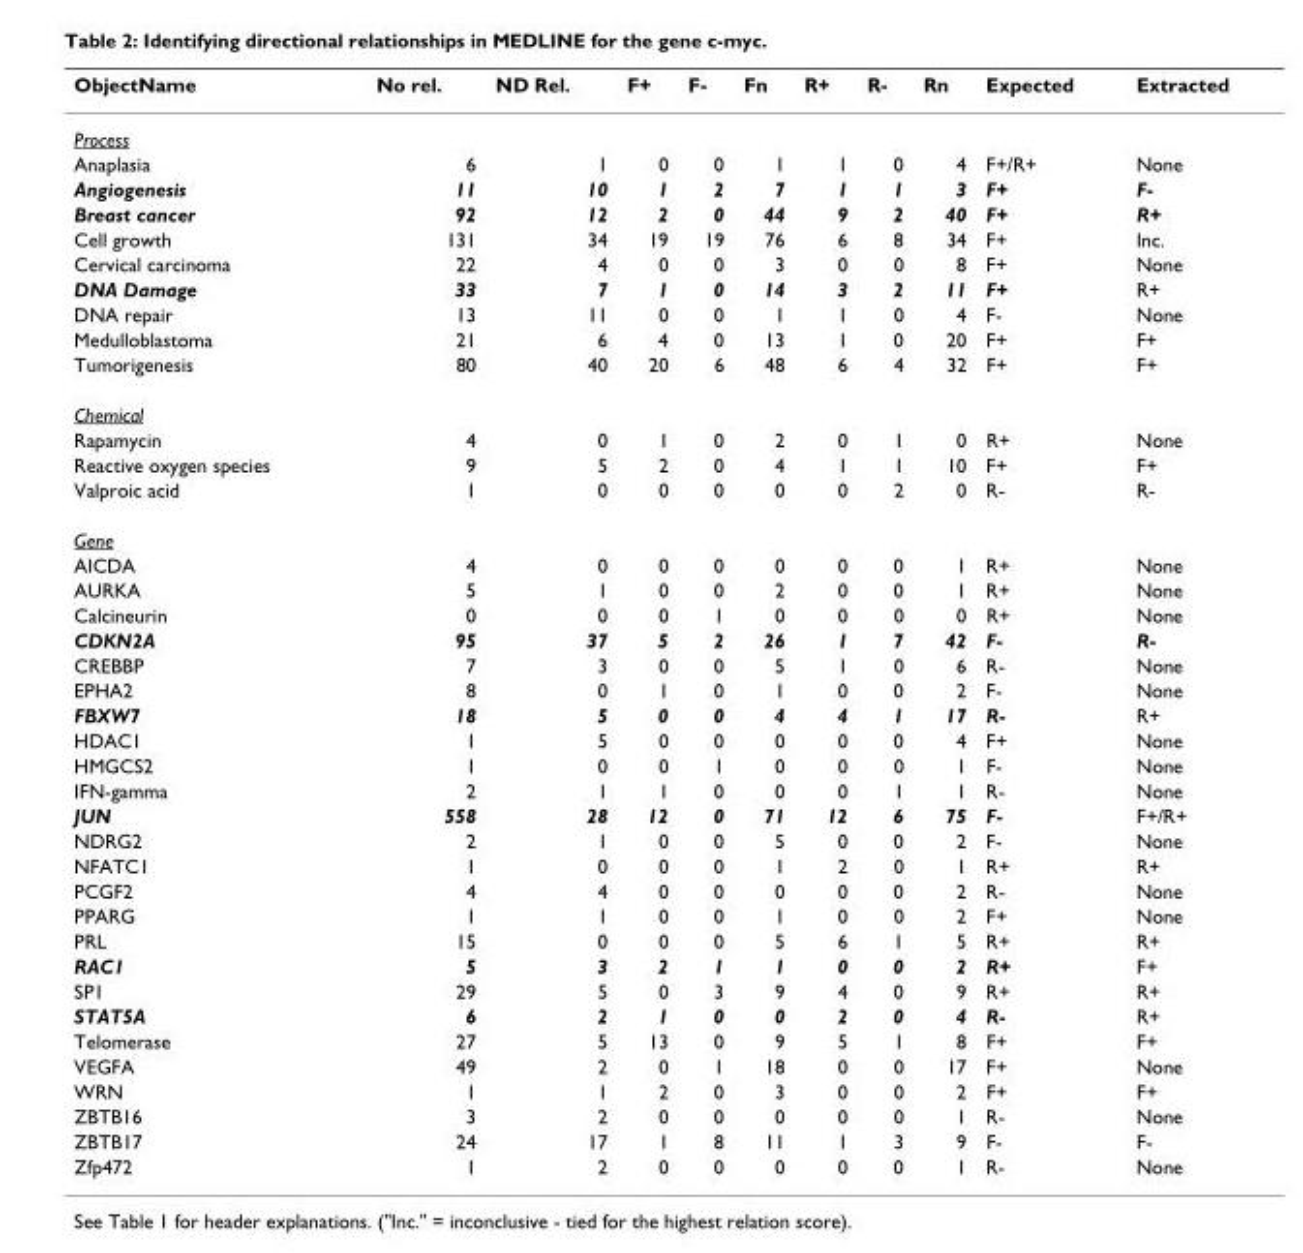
<table><thead><tr><td>ObjectName</td><td>No rel.</td><td>ND Rel.</td><td>F+</td><td>F-</td><td>Fn</td><td>R+</td><td>R-</td><td>Rn</td><td>Expected</td><td>Extracted</td></tr></thead><tbody><tr><td colspan="11">Process</td></tr><tr><td>Anaplasia</td><td>6</td><td>1</td><td>0</td><td>0</td><td>1</td><td>1</td><td>0</td><td>4</td><td>F+/R+</td><td>None</td></tr><tr><td>Angiogenesis</td><td>11</td><td>10</td><td>1</td><td>2</td><td>7</td><td>1</td><td>1</td><td>3</td><td>F+</td><td>F-</td></tr><tr><td>Breast cancer</td><td>92</td><td>12</td><td>2</td><td>0</td><td>44</td><td>9</td><td>2</td><td>40</td><td>F+</td><td>R+</td></tr><tr><td>Cell growth</td><td>131</td><td>34</td><td>19</td><td>19</td><td>76</td><td>6</td><td>8</td><td>34</td><td>F+</td><td>Inc.</td></tr><tr><td>Cervical carcinoma</td><td>22</td><td>4</td><td>0</td><td>0</td><td>3</td><td>0</td><td>0</td><td>8</td><td>F+</td><td>None</td></tr><tr><td>DNA Damage</td><td>33</td><td>7</td><td>1</td><td>0</td><td>14</td><td>3</td><td>2</td><td>11</td><td>F+</td><td>R+</td></tr><tr><td>DNA repair</td><td>13</td><td>11</td><td>0</td><td>0</td><td>1</td><td>1</td><td>0</td><td>4</td><td>F-</td><td>None</td></tr><tr><td>Medulloblastoma</td><td>21</td><td>6</td><td>4</td><td>0</td><td>13</td><td>1</td><td>0</td><td>20</td><td>F+</td><td>F+</td></tr><tr><td>Tumorigenesis</td><td>80</td><td>40</td><td>20</td><td>6</td><td>48</td><td>6</td><td>4</td><td>32</td><td>F+</td><td>F+</td></tr><tr><td colspan="11">Chemical</td></tr><tr><td>Rapamycin</td><td>4</td><td>0</td><td>1</td><td>0</td><td>2</td><td>0</td><td>1</td><td>0</td><td>R+</td><td>None</td></tr><tr><td>Reactive oxygen species</td><td>9</td><td>5</td><td>2</td><td>0</td><td>4</td><td>1</td><td>1</td><td>10</td><td>F+</td><td>F+</td></tr><tr><td>Valproic acid</td><td>1</td><td>0</td><td>0</td><td>0</td><td>0</td><td>0</td><td>2</td><td>0</td><td>R-</td><td>R-</td></tr><tr><td colspan="11">Gene</td></tr><tr><td>AICDA</td><td>4</td><td>0</td><td>0</td><td>0</td><td>0</td><td>0</td><td>0</td><td>1</td><td>R+</td><td>None</td></tr><tr><td>AURKA</td><td>5</td><td>1</td><td>0</td><td>0</td><td>2</td><td>0</td><td>0</td><td>1</td><td>R+</td><td>None</td></tr><tr><td>Calcineurin</td><td>0</td><td>0</td><td>0</td><td>1</td><td>0</td><td>0</td><td>0</td><td>0</td><td>R+</td><td>None</td></tr><tr><td>CDKN2A</td><td>95</td><td>37</td><td>5</td><td>2</td><td>26</td><td>1</td><td>7</td><td>42</td><td>F-</td><td>R-</td></tr><tr><td>CREBBP</td><td>7</td><td>3</td><td>0</td><td>0</td><td>5</td><td>1</td><td>0</td><td>6</td><td>R-</td><td>None</td></tr><tr><td>EPHA2</td><td>8</td><td>0</td><td>1</td><td>0</td><td>1</td><td>0</td><td>0</td><td>2</td><td>F-</td><td>None</td></tr><tr><td>FBXW7</td><td>18</td><td>5</td><td>0</td><td>0</td><td>4</td><td>4</td><td>1</td><td>17</td><td>R-</td><td>R+</td></tr><tr><td>HDAC1</td><td>1</td><td>5</td><td>0</td><td>0</td><td>0</td><td>0</td><td>0</td><td>4</td><td>F+</td><td>None</td></tr><tr><td>HMGCS2</td><td>1</td><td>0</td><td>0</td><td>1</td><td>0</td><td>0</td><td>0</td><td>1</td><td>F-</td><td>None</td></tr><tr><td>IFN-gamma</td><td>2</td><td>1</td><td>1</td><td>0</td><td>0</td><td>0</td><td>1</td><td>1</td><td>R-</td><td>None</td></tr><tr><td>JUN</td><td>558</td><td>28</td><td>12</td><td>0</td><td>71</td><td>12</td><td>6</td><td>75</td><td>F-</td><td>F+/R+</td></tr><tr><td>NDRG2</td><td>2</td><td>1</td><td>0</td><td>0</td><td>5</td><td>0</td><td>0</td><td>2</td><td>F-</td><td>None</td></tr><tr><td>NFATC1</td><td>1</td><td>0</td><td>0</td><td>0</td><td>1</td><td>2</td><td>0</td><td>1</td><td>R+</td><td>R+</td></tr><tr><td>PCGF2</td><td>4</td><td>4</td><td>0</td><td>0</td><td>0</td><td>0</td><td>0</td><td>2</td><td>R-</td><td>None</td></tr><tr><td>PPARG</td><td>1</td><td>1</td><td>0</td><td>0</td><td>1</td><td>0</td><td>0</td><td>2</td><td>F+</td><td>None</td></tr><tr><td>PRL</td><td>15</td><td>0</td><td>0</td><td>0</td><td>5</td><td>6</td><td>1</td><td>5</td><td>R+</td><td>R+</td></tr><tr><td>RAC1</td><td>5</td><td>3</td><td>2</td><td>1</td><td>1</td><td>0</td><td>0</td><td>2</td><td>R+</td><td>F+</td></tr><tr><td>SP1</td><td>29</td><td>5</td><td>0</td><td>3</td><td>9</td><td>4</td><td>0</td><td>9</td><td>R+</td><td>R+</td></tr><tr><td>STAT5A</td><td>6</td><td>2</td><td>1</td><td>0</td><td>0</td><td>2</td><td>0</td><td>4</td><td>R-</td><td>R+</td></tr><tr><td>Telomerase</td><td>27</td><td>5</td><td>13</td><td>0</td><td>9</td><td>5</td><td>1</td><td>8</td><td>F+</td><td>F+</td></tr><tr><td>VEGFA</td><td>49</td><td>2</td><td>0</td><td>1</td><td>18</td><td>0</td><td>0</td><td>17</td><td>F+</td><td>None</td></tr><tr><td>WRN</td><td>1</td><td>1</td><td>2</td><td>0</td><td>3</td><td>0</td><td>0</td><td>2</td><td>F+</td><td>F+</td></tr><tr><td>ZBTB16</td><td>3</td><td>2</td><td>0</td><td>0</td><td>0</td><td>0</td><td>0</td><td>1</td><td>R-</td><td>None</td></tr><tr><td>ZBTB17</td><td>24</td><td>17</td><td>1</td><td>8</td><td>11</td><td>1</td><td>3</td><td>9</td><td>F-</td><td>F-</td></tr><tr><td>Zfp472</td><td>1</td><td>2</td><td>0</td><td>0</td><td>0</td><td>0</td><td>0</td><td>1</td><td>R-</td><td>None</td></tr></tbody></table>